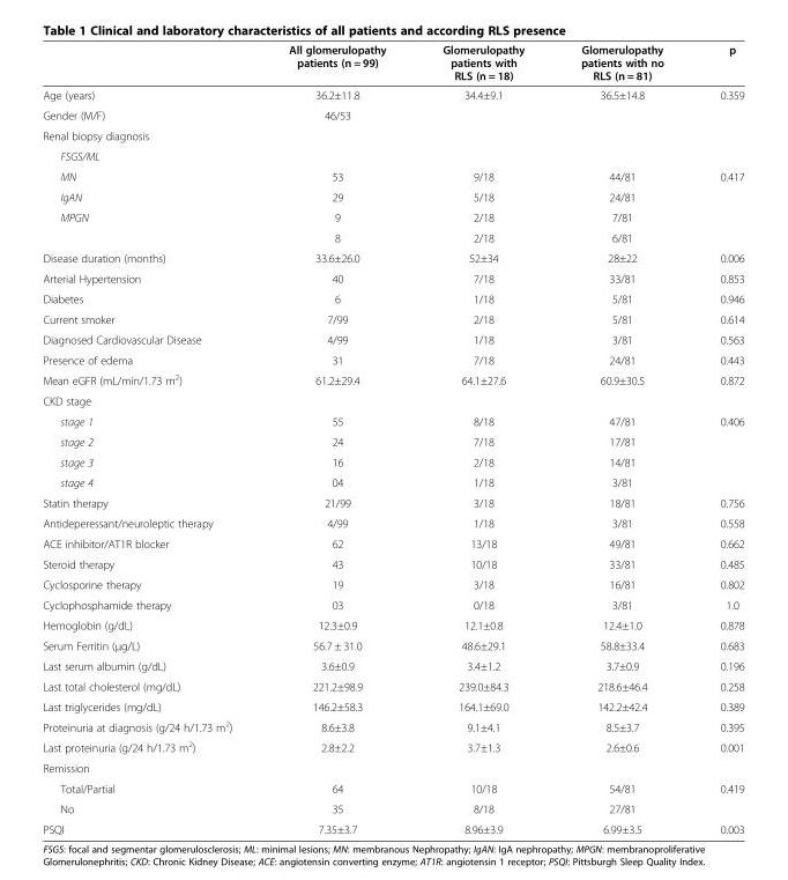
<table><thead><tr><td></td><td>All glomerulopathy patients (n = 99)</td><td>Glomerulopathy patients with RLS (n = 18)</td><td>Glomerulopathy patients with no RLS (n = 81)</td><td>p</td></tr></thead><tbody><tr><td>Age (years)</td><td>36.2±11.8</td><td>34.4±9.1</td><td>36.5±14.8</td><td>0.359</td></tr><tr><td>Gender (M/F)</td><td>46/53</td><td></td><td></td><td></td></tr><tr><td colspan="5">Renal biopsy diagnosis</td></tr><tr><td colspan="5">FSGS/ML</td></tr><tr><td>MN</td><td>53</td><td>9/18</td><td>44/81</td><td rowspan="2">0.417</td></tr><tr><td>IgAN</td><td>29</td><td>5/18</td><td>24/81</td></tr><tr><td rowspan="2">MPGN</td><td>9</td><td>2/18</td><td>7/81</td><td rowspan="2"></td></tr><tr><td>8</td><td>2/18</td><td>6/81</td></tr><tr><td>Disease duration (months)</td><td>33.6±26.0</td><td>52±34</td><td>28±22</td><td>0.006</td></tr><tr><td>Arterial Hypertension</td><td>40</td><td>7/18</td><td>33/81</td><td>0.853</td></tr><tr><td>Diabetes</td><td>6</td><td>1/18</td><td>5/81</td><td>0.946</td></tr><tr><td>Current smoker</td><td>7/99</td><td>2/18</td><td>5/81</td><td>0.614</td></tr><tr><td>Diagnosed Cardiovascular Disease</td><td>4/99</td><td>1/18</td><td>3/81</td><td>0.563</td></tr><tr><td>Presence of edema</td><td>31</td><td>7/18</td><td>24/81</td><td>0.443</td></tr><tr><td>Mean eGFR (mL/min/1.73 m<sup>2</sup>)</td><td>61.2±29.4</td><td>64.1±27.6</td><td>60.9±30.5</td><td>0.872</td></tr><tr><td colspan="5">CKD stage</td></tr><tr><td>stage 1</td><td>55</td><td>8/18</td><td>47/81</td><td rowspan="4">0.406</td></tr><tr><td>stage 2</td><td>24</td><td>7/18</td><td>17/81</td></tr><tr><td>stage 3</td><td>16</td><td>2/18</td><td>14/81</td></tr><tr><td>stage 4</td><td>04</td><td>1/18</td><td>3/81</td></tr><tr><td>Statin therapy</td><td>21/99</td><td>3/18</td><td>18/81</td><td>0.756</td></tr><tr><td>Antideperessant/neuroleptic therapy</td><td>4/99</td><td>1/18</td><td>3/81</td><td>0.558</td></tr><tr><td>ACE inhibitor/AT1R blocker</td><td>62</td><td>13/18</td><td>49/81</td><td>0.662</td></tr><tr><td>Steroid therapy</td><td>43</td><td>10/18</td><td>33/81</td><td>0.485</td></tr><tr><td>Cyclosporine therapy</td><td>19</td><td>3/18</td><td>16/81</td><td>0.802</td></tr><tr><td>Cyclophosphamide therapy</td><td>03</td><td>0/18</td><td>3/81</td><td>1.0</td></tr><tr><td>Hemoglobin (g/dL)</td><td>12.3±0.9</td><td>12.1±0.8</td><td>12.4±1.0</td><td>0.878</td></tr><tr><td>Serum Ferritin (μg/L)</td><td>56.7 ± 31.0</td><td>48.6±29.1</td><td>58.8±33.4</td><td>0.683</td></tr><tr><td>Last serum albumin (g/dL)</td><td>3.6±0.9</td><td>3.4±1.2</td><td>3.7±0.9</td><td>0.196</td></tr><tr><td>Last total cholesterol (mg/dL)</td><td>221.2±98.9</td><td>239.0±84.3</td><td>218.6±46.4</td><td>0.258</td></tr><tr><td>Last triglycerides (mg/dL)</td><td>146.2±58.3</td><td>164.1±69.0</td><td>142.2±42.4</td><td>0.389</td></tr><tr><td>Proteinuria at diagnosis (g/24 h/1.73 m<sup>2</sup>)</td><td>8.6±3.8</td><td>9.1±4.1</td><td>8.5±3.7</td><td>0.395</td></tr><tr><td>Last proteinuria (g/24 h/1.73 m<sup>2</sup>)</td><td>2.8±2.2</td><td>3.7±1.3</td><td>2.6±0.6</td><td>0.001</td></tr><tr><td colspan="5">Remission</td></tr><tr><td>Total/Partial</td><td>64</td><td>10/18</td><td>54/81</td><td rowspan="2">0.419</td></tr><tr><td>No</td><td>35</td><td>8/18</td><td>27/81</td></tr><tr><td>PSQI</td><td>7.35±3.7</td><td>8.96±3.9</td><td>6.99±3.5</td><td>0.003</td></tr></tbody></table>